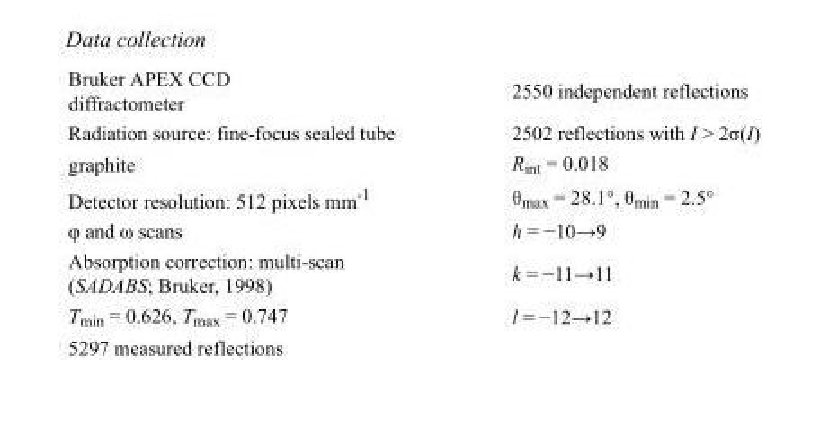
<table><tbody><tr><td>Bruker APEX CCD diffractometer</td><td>2550 independent reflections</td></tr><tr><td>Radiation source: fine-focus sealed tube</td><td>2502 reflections with I &gt; 2σ(I)</td></tr><tr><td>graphite</td><td>R<sub>int</sub> = 0.018</td></tr><tr><td>Detector resolution: 512 pixels mm<sup>-1</sup></td><td>θ<sub>max</sub> = 28.1°, θ<sub>min</sub> = 2.5°</td></tr><tr><td>φ and ω scans</td><td>h = −10→9</td></tr><tr><td>Absorption correction: multi-scan (SADABS; Bruker, 1998)</td><td>k = −11→11</td></tr><tr><td>T<sub>min</sub> = 0.626, T<sub>max</sub> = 0.747</td><td>l = −12→12</td></tr><tr><td>5297 measured reflections</td><td></td></tr></tbody></table>